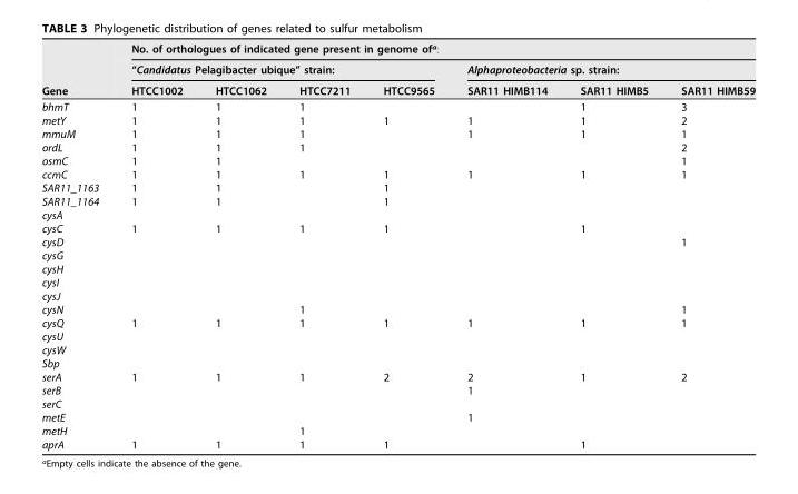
<table><thead><tr><td rowspan="3">Gene</td><td colspan="7">No. of orthologues of indicated gene present in genome of<sup>a</sup>:</td></tr><tr><td colspan="4">“Candidatus Pelagibacter ubique” strain:</td><td colspan="3">Alphaproteobacteria sp. strain:</td></tr><tr><td>HTCC1002</td><td>HTCC1062</td><td>HTCC7211</td><td>HTCC9565</td><td>SAR11 HIMB114</td><td>SAR11 HIMB5</td><td>SAR11 HIMB59</td></tr></thead><tbody><tr><td>bhmT</td><td>1</td><td>1</td><td>1</td><td></td><td></td><td>1</td><td>3</td></tr><tr><td>metY</td><td>1</td><td>1</td><td>1</td><td>1</td><td>1</td><td>1</td><td>2</td></tr><tr><td>mmuM</td><td>1</td><td>1</td><td>1</td><td></td><td>1</td><td>1</td><td>1</td></tr><tr><td>ordL</td><td>1</td><td>1</td><td>1</td><td></td><td></td><td></td><td>2</td></tr><tr><td>osmC</td><td>1</td><td>1</td><td></td><td></td><td></td><td></td><td>1</td></tr><tr><td>ccmC</td><td>1</td><td>1</td><td>1</td><td>1</td><td>1</td><td>1</td><td>1</td></tr><tr><td>SAR11_1163</td><td>1</td><td>1</td><td></td><td>1</td><td></td><td></td><td></td></tr><tr><td>SAR11_1164</td><td>1</td><td>1</td><td></td><td>1</td><td></td><td></td><td></td></tr><tr><td colspan="8">cysA</td></tr><tr><td>cysC</td><td>1</td><td>1</td><td>1</td><td>1</td><td></td><td>1</td><td></td></tr><tr><td>cysD</td><td></td><td></td><td></td><td></td><td></td><td></td><td>1</td></tr><tr><td colspan="8">cysG</td></tr><tr><td colspan="8">cysH</td></tr><tr><td colspan="8">cysI</td></tr><tr><td colspan="8">cysJ</td></tr><tr><td>cysN</td><td></td><td></td><td>1</td><td></td><td></td><td></td><td>1</td></tr><tr><td>cysQ</td><td>1</td><td>1</td><td>1</td><td>1</td><td>1</td><td>1</td><td>1</td></tr><tr><td colspan="8">cysU</td></tr><tr><td colspan="8">cysW</td></tr><tr><td colspan="8">Sbp</td></tr><tr><td>serA</td><td>1</td><td>1</td><td>1</td><td>2</td><td>2</td><td>1</td><td>2</td></tr><tr><td>serB</td><td></td><td></td><td></td><td></td><td>1</td><td></td><td></td></tr><tr><td colspan="8">serC</td></tr><tr><td>metE</td><td></td><td></td><td></td><td></td><td>1</td><td></td><td></td></tr><tr><td>metH</td><td></td><td></td><td>1</td><td></td><td></td><td></td><td></td></tr><tr><td>aprA</td><td>1</td><td>1</td><td>1</td><td>1</td><td></td><td>1</td><td></td></tr></tbody></table>